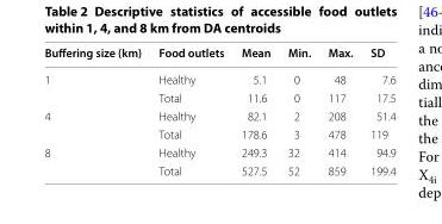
<table><thead><tr><td>Buffering size (km)</td><td>Food outlets</td><td>Mean</td><td>Min.</td><td>Max.</td><td>SD</td></tr></thead><tbody><tr><td rowspan="2">1</td><td>Healthy</td><td>5.1</td><td>0</td><td>48</td><td>7.6</td></tr><tr><td>Total</td><td>11.6</td><td>0</td><td>117</td><td>17.5</td></tr><tr><td rowspan="2">4</td><td>Healthy</td><td>82.1</td><td>2</td><td>208</td><td>51.4</td></tr><tr><td>Total</td><td>178.6</td><td>3</td><td>478</td><td>119</td></tr><tr><td rowspan="2">8</td><td>Healthy</td><td>249.3</td><td>32</td><td>414</td><td>94.9</td></tr><tr><td>Total</td><td>527.5</td><td>52</td><td>859</td><td>199.4</td></tr></tbody></table>